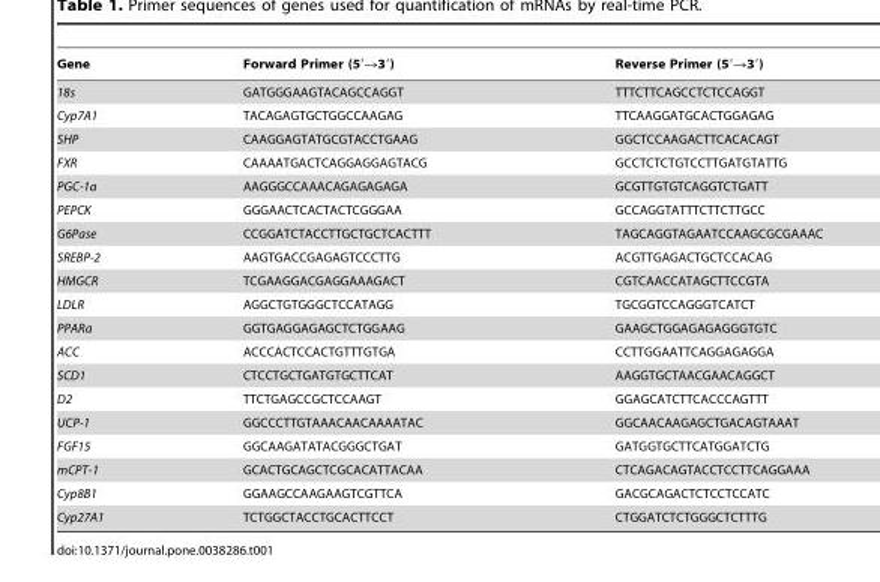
<table><thead><tr><td>Gene</td><td>Forward Primer (5′→3′)</td><td>Reverse Primer (5′→3′)</td></tr></thead><tbody><tr><td>18s</td><td>GATGGGAAGTACAGCCAGGT</td><td>TTTCTTCAGCCTCTCCAGGT</td></tr><tr><td>Cyp7A1</td><td>TACAGAGTGCTGGCCAAGAG</td><td>TTCAAGGATGCACTGGAGAG</td></tr><tr><td>SHP</td><td>CAAGGAGTATGCGTACCTGAAG</td><td>GGCTCCAAGACTTCACACAGT</td></tr><tr><td>FXR</td><td>CAAAATGACTCAGGAGGAGTACG</td><td>GCCTCTCTGTCCTTGATGTATTG</td></tr><tr><td>PGC-1a</td><td>AAGGGCCAAACAGAGAGAGA</td><td>GCGTTGTGTCAGGTCTGATT</td></tr><tr><td>PEPCK</td><td>GGGAACTCACTACTCGGGAA</td><td>GCCAGGTATTTCTTCTTGCC</td></tr><tr><td>G6Pase</td><td>CCGGATCTACCTTGCTGCTCACTTT</td><td>TAGCAGGTAGAATCCAAGCGCGAAAC</td></tr><tr><td>SREBP-2</td><td>AAGTGACCGAGAGTCCCTTG</td><td>ACGTTGAGACTGCTCCACAG</td></tr><tr><td>HMGCR</td><td>TCGAAGGACGAGGAAAGACT</td><td>CGTCAACCATAGCTTCCGTA</td></tr><tr><td>LDLR</td><td>AGGCTGTGGGCTCCATAGG</td><td>TGCGGTCCAGGGTCATCT</td></tr><tr><td>PPARa</td><td>GGTGAGGAGAGCTCTGGAAG</td><td>GAAGCTGGAGAGAGGGTGTC</td></tr><tr><td>ACC</td><td>ACCCACTCCACTGTTTGTGA</td><td>CCTTGGAATTCAGGAGAGGA</td></tr><tr><td>SCD1</td><td>CTCCTGCTGATGTGCTTCAT</td><td>AAGGTGCTAACGAACAGGCT</td></tr><tr><td>D2</td><td>TTCTGAGCCGCTCCAAGT</td><td>GGAGCATCTTCACCCAGTTT</td></tr><tr><td>UCP-1</td><td>GGCCCTTGTAAACAACAAAATAC</td><td>GGCAACAAGAGCTGACAGTAAAT</td></tr><tr><td>FGF15</td><td>GGCAAGATATACGGGCTGAT</td><td>GATGGTGCTTCATGGATCTG</td></tr><tr><td>mCPT-1</td><td>GCACTGCAGCTCGCACATTACAA</td><td>CTCAGACAGTACCTCCTTCAGGAAA</td></tr><tr><td>Cyp8B1</td><td>GGAAGCCAAGAAGTCGTTCA</td><td>GACGCAGACTCTCCTCCATC</td></tr><tr><td>Cyp27A1</td><td>TCTGGCTACCTGCACTTCCT</td><td>CTGGATCTCTGGGCTCTTTG</td></tr></tbody></table>